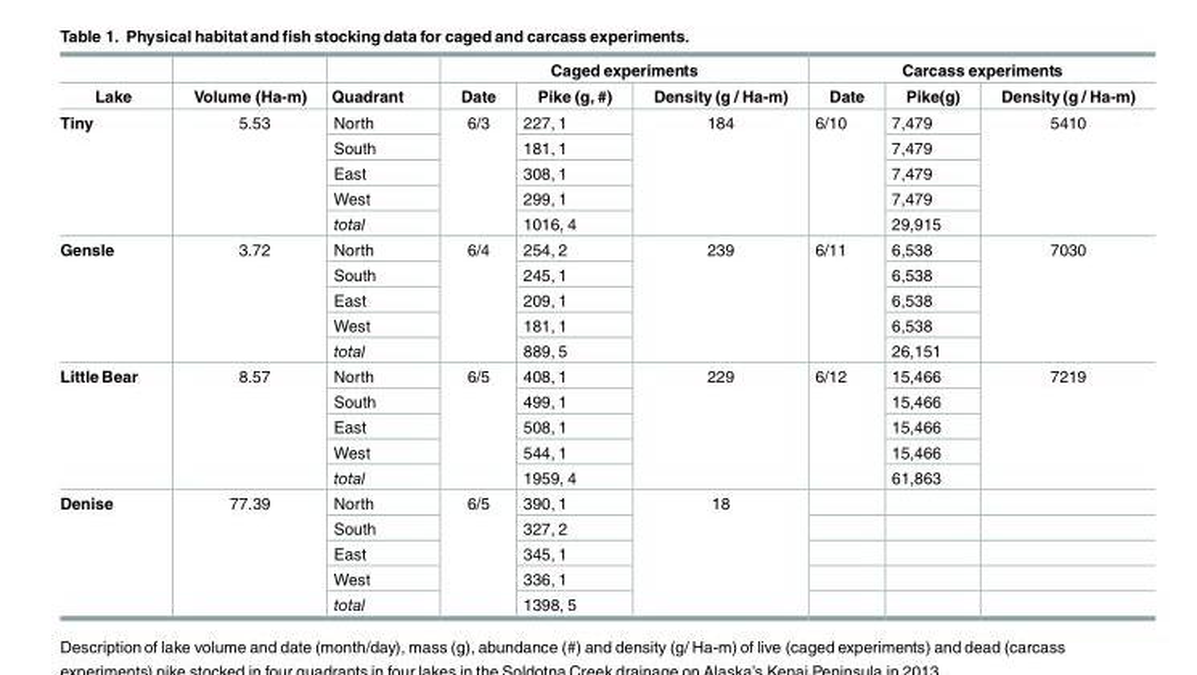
<table><thead><tr><td rowspan="2">Lake</td><td rowspan="2">Volume (Ha-m)</td><td rowspan="2">Quadrant</td><td colspan="3">Caged experiments</td><td colspan="3">Carcass experiments</td></tr><tr><td>Date</td><td>Pike (g, #)</td><td>Density (g / Ha-m)</td><td>Date</td><td>Pike(g)</td><td>Density (g / Ha-m)</td></tr></thead><tbody><tr><td rowspan="5">Tiny</td><td rowspan="5">5.53</td><td>North</td><td rowspan="5">6/3</td><td>227, 1</td><td rowspan="5">184</td><td rowspan="5">6/10</td><td>7,479</td><td rowspan="5">5410</td></tr><tr><td>South</td><td>181, 1</td><td>7,479</td></tr><tr><td>East</td><td>308, 1</td><td>7,479</td></tr><tr><td>West</td><td>299, 1</td><td>7,479</td></tr><tr><td>total</td><td>1016, 4</td><td>29,915</td></tr><tr><td rowspan="5">Gensle</td><td rowspan="5">3.72</td><td>North</td><td rowspan="5">6/4</td><td>254, 2</td><td rowspan="5">239</td><td rowspan="5">6/11</td><td>6,538</td><td rowspan="5">7030</td></tr><tr><td>South</td><td>245, 1</td><td>6,538</td></tr><tr><td>East</td><td>209, 1</td><td>6,538</td></tr><tr><td>West</td><td>181, 1</td><td>6,538</td></tr><tr><td>total</td><td>889, 5</td><td>26,151</td></tr><tr><td rowspan="5">Little Bear</td><td rowspan="5">8.57</td><td>North</td><td rowspan="5">6/5</td><td>408, 1</td><td rowspan="5">229</td><td rowspan="5">6/12</td><td>15,466</td><td rowspan="5">7219</td></tr><tr><td>South</td><td>499, 1</td><td>15,466</td></tr><tr><td>East</td><td>508, 1</td><td>15,466</td></tr><tr><td>West</td><td>544, 1</td><td>15,466</td></tr><tr><td>total</td><td>1959, 4</td><td>61,863</td></tr><tr><td rowspan="5">Denise</td><td rowspan="5">77.39</td><td>North</td><td rowspan="5">6/5</td><td>390, 1</td><td rowspan="5">18</td><td></td><td></td><td></td></tr><tr><td>South</td><td>327, 2</td><td></td><td></td><td></td></tr><tr><td>East</td><td>345, 1</td><td></td><td></td><td></td></tr><tr><td>West</td><td>336, 1</td><td></td><td></td><td></td></tr><tr><td>total</td><td>1398, 5</td><td></td><td></td><td></td></tr></tbody></table>